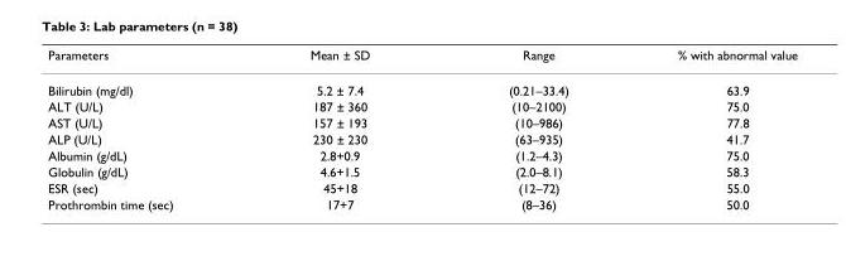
<table><thead><tr><td>Parameters</td><td>Mean ± SD</td><td>Range</td><td>% with abnormal value</td></tr></thead><tbody><tr><td>Bilirubin (mg/dl)</td><td>5.2 ± 7.4</td><td>(0.21–33.4)</td><td>63.9</td></tr><tr><td>ALT (U/L)</td><td>187 ± 360</td><td>(10–2100)</td><td>75.0</td></tr><tr><td>AST (U/L)</td><td>157 ± 193</td><td>(10–986)</td><td>77.8</td></tr><tr><td>ALP (U/L)</td><td>230 ± 230</td><td>(63–935)</td><td>41.7</td></tr><tr><td>Albumin (g/dL)</td><td>2.8+0.9</td><td>(1.2–4.3)</td><td>75.0</td></tr><tr><td>Globulin (g/dL)</td><td>4.6+1.5</td><td>(2.0–8.1)</td><td>58.3</td></tr><tr><td>ESR (sec)</td><td>45+18</td><td>(12–72)</td><td>55.0</td></tr><tr><td>Prothrombin time (sec)</td><td>17+7</td><td>(8–36)</td><td>50.0</td></tr></tbody></table>